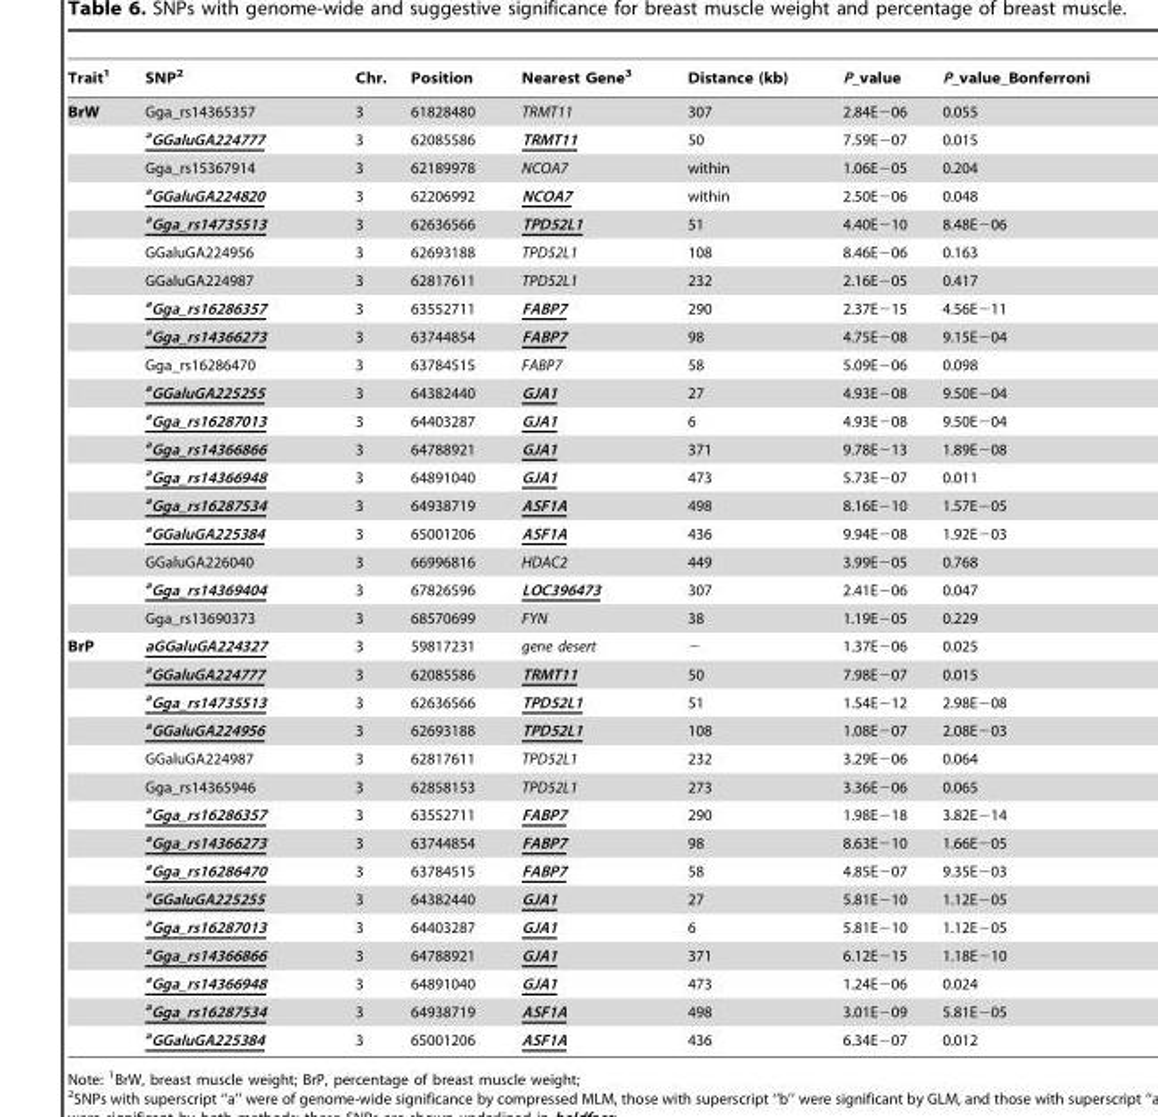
<table><thead><tr><td>Trait<sup>1</sup></td><td>SNP<sup>2</sup></td><td>Chr.</td><td>Position</td><td>Nearest Gene<sup>3</sup></td><td>Distance (kb)</td><td>P_value</td><td>P_value_Bonferroni</td></tr></thead><tbody><tr><td rowspan="19">BrW</td><td>Gga_rs14365357</td><td>3</td><td>61828480</td><td>TRMT11</td><td>307</td><td>2.84E−06</td><td>0.055</td></tr><tr><td><sup>a</sup>GGaluGA224777</td><td>3</td><td>62085586</td><td>TRMT11</td><td>50</td><td>7.59E−07</td><td>0.015</td></tr><tr><td>Gga_rs15367914</td><td>3</td><td>62189978</td><td>NCOA7</td><td>within</td><td>1.06E−05</td><td>0.204</td></tr><tr><td><sup>a</sup>GGaluGA224820</td><td>3</td><td>62206992</td><td>NCOA7</td><td>within</td><td>2.50E−06</td><td>0.048</td></tr><tr><td><sup>a</sup>Gga_rs14735513</td><td>3</td><td>62636566</td><td>TPD52L1</td><td>51</td><td>4.40E−10</td><td>8.48E−06</td></tr><tr><td>GGaluGA224956</td><td>3</td><td>62693188</td><td>TPD52L1</td><td>108</td><td>8.46E−06</td><td>0.163</td></tr><tr><td>GGaluGA224987</td><td>3</td><td>62817611</td><td>TPD52L1</td><td>232</td><td>2.16E−05</td><td>0.417</td></tr><tr><td><sup>a</sup>Gga_rs16286357</td><td>3</td><td>63552711</td><td>FABP7</td><td>290</td><td>2.37E−15</td><td>4.56E−11</td></tr><tr><td><sup>a</sup>Gga_rs14366273</td><td>3</td><td>63744854</td><td>FABP7</td><td>98</td><td>4.75E−08</td><td>9.15E−04</td></tr><tr><td>Gga_rs16286470</td><td>3</td><td>63784515</td><td>FABP7</td><td>58</td><td>5.09E−06</td><td>0.098</td></tr><tr><td><sup>a</sup>GGaluGA225255</td><td>3</td><td>64382440</td><td>GJA1</td><td>27</td><td>4.93E−08</td><td>9.50E−04</td></tr><tr><td><sup>a</sup>Gga_rs16287013</td><td>3</td><td>64403287</td><td>GJA1</td><td>6</td><td>4.93E−08</td><td>9.50E−04</td></tr><tr><td><sup>a</sup>Gga_rs14366866</td><td>3</td><td>64788921</td><td>GJA1</td><td>371</td><td>9.78E−13</td><td>1.89E−08</td></tr><tr><td><sup>a</sup>Gga_rs14366948</td><td>3</td><td>64891040</td><td>GJA1</td><td>473</td><td>5.73E−07</td><td>0.011</td></tr><tr><td><sup>a</sup>Gga_rs16287534</td><td>3</td><td>64938719</td><td>ASF1A</td><td>498</td><td>8.16E−10</td><td>1.57E−05</td></tr><tr><td><sup>a</sup>GGaluGA225384</td><td>3</td><td>65001206</td><td>ASF1A</td><td>436</td><td>9.94E−08</td><td>1.92E−03</td></tr><tr><td>GGaluGA226040</td><td>3</td><td>66996816</td><td>HDAC2</td><td>449</td><td>3.99E−05</td><td>0.768</td></tr><tr><td><sup>a</sup>Gga_rs14369404</td><td>3</td><td>67826596</td><td>LOC396473</td><td>307</td><td>2.41E−06</td><td>0.047</td></tr><tr><td>Gga_rs13690373</td><td>3</td><td>68570699</td><td>FYN</td><td>38</td><td>1.19E−05</td><td>0.229</td></tr><tr><td rowspan="15">BrP</td><td>aGGaluGA224327</td><td>3</td><td>59817231</td><td>gene desert</td><td>−</td><td>1.37E−06</td><td>0.025</td></tr><tr><td><sup>a</sup>GGaluGA224777</td><td>3</td><td>62085586</td><td>TRMT11</td><td>50</td><td>7.98E−07</td><td>0.015</td></tr><tr><td><sup>a</sup>Gga_rs14735513</td><td>3</td><td>62636566</td><td>TPD52L1</td><td>51</td><td>1.54E−12</td><td>2.98E−08</td></tr><tr><td><sup>a</sup>GGaluGA224956</td><td>3</td><td>62693188</td><td>TPD52L1</td><td>108</td><td>1.08E−07</td><td>2.08E−03</td></tr><tr><td>GGaluGA224987</td><td>3</td><td>62817611</td><td>TPD52L1</td><td>232</td><td>3.29E−06</td><td>0.064</td></tr><tr><td>Gga_rs14365946</td><td>3</td><td>62858153</td><td>TPD52L1</td><td>273</td><td>3.36E−06</td><td>0.065</td></tr><tr><td><sup>a</sup>Gga_rs16286357</td><td>3</td><td>63552711</td><td>FABP7</td><td>290</td><td>1.98E−18</td><td>3.82E−14</td></tr><tr><td><sup>a</sup>Gga_rs14366273</td><td>3</td><td>63744854</td><td>FABP7</td><td>98</td><td>8.63E−10</td><td>1.66E−05</td></tr><tr><td><sup>a</sup>Gga_rs16286470</td><td>3</td><td>63784515</td><td>FABP7</td><td>58</td><td>4.85E−07</td><td>9.35E−03</td></tr><tr><td><sup>a</sup>GGaluGA225255</td><td>3</td><td>64382440</td><td>GJA1</td><td>27</td><td>5.81E−10</td><td>1.12E−05</td></tr><tr><td><sup>a</sup>Gga_rs16287013</td><td>3</td><td>64403287</td><td>GJA1</td><td>6</td><td>5.81E−10</td><td>1.12E−05</td></tr><tr><td><sup>a</sup>Gga_rs14366866</td><td>3</td><td>64788921</td><td>GJA1</td><td>371</td><td>6.12E−15</td><td>1.18E−10</td></tr><tr><td><sup>a</sup>Gga_rs14366948</td><td>3</td><td>64891040</td><td>GJA1</td><td>473</td><td>1.24E−06</td><td>0.024</td></tr><tr><td><sup>a</sup>Gga_rs16287534</td><td>3</td><td>64938719</td><td>ASF1A</td><td>498</td><td>3.01E−09</td><td>5.81E−05</td></tr><tr><td><sup>a</sup>GGaluGA225384</td><td>3</td><td>65001206</td><td>ASF1A</td><td>436</td><td>6.34E−07</td><td>0.012</td></tr></tbody></table>